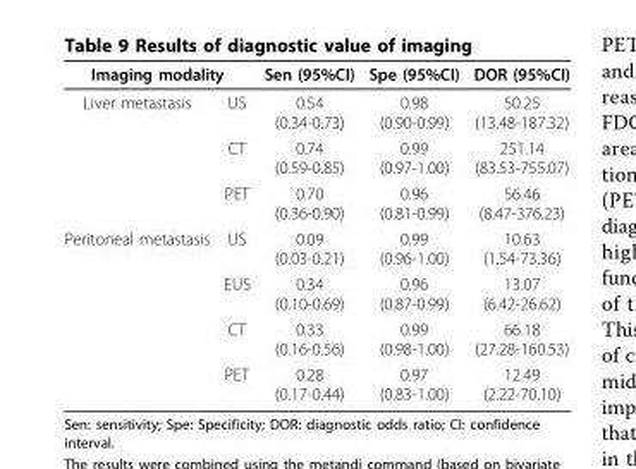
<table><thead><tr><td colspan="2">Imaging modality</td><td rowspan="2">Sen (95%CI) 0.54 (0.34-0.73)</td><td rowspan="2">Spe (95%CI) 0.98 (0.90-0.99)</td><td rowspan="2">DOR (95%CI) 50.25 (13.48-187.32)</td></tr><tr><td>Liver metastasis</td><td>US</td></tr></thead><tbody><tr><td></td><td>CT</td><td>0.74 (0.59-0.85)</td><td>0.99 (0.97-1.00)</td><td>251.14 (83.53-755.07)</td></tr><tr><td></td><td>PET</td><td>0.70 (0.36-0.90)</td><td>0.96 (0.81-0.99)</td><td>56.46 (8.47-376.23)</td></tr><tr><td rowspan="4">Peritoneal metastasis</td><td>US</td><td>0.09 (0.03-0.21)</td><td>0.99 (0.96-1.00)</td><td>10.63 (1.54-73.36)</td></tr><tr><td>EUS</td><td>0.34 (0.10-0.69)</td><td>0.96 (0.87-0.99)</td><td>13.07 (6.42-26.62)</td></tr><tr><td>CT</td><td>0.33 (0.16-0.56)</td><td>0.99 (0.98-1.00)</td><td>66.18 (27.28-160.53)</td></tr><tr><td>PET</td><td>0.28 (0.17-0.44)</td><td>0.97 (0.83-1.00)</td><td>12.49 (2.22-70.10)</td></tr></tbody></table>